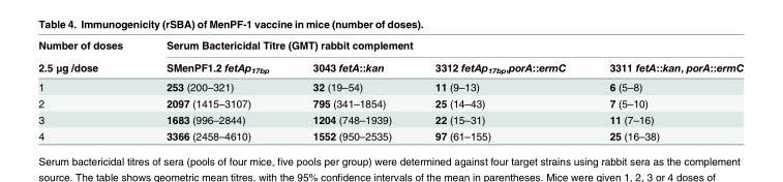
<table><thead><tr><td rowspan="2">Number of doses 2.5 μg /dose</td><td colspan="4">Serum Bactericidal Titre (GMT) rabbit complement</td></tr><tr><td>SMenPF1.2 fetAp<sub>17bp</sub></td><td>3043 fetA::kan</td><td>3312 fetAp<sub>17bp</sub>,porA::ermC</td><td>3311 fetA::kan, porA::ermC</td></tr></thead><tbody><tr><td>1</td><td>253 (200–321)</td><td>32 (19–54)</td><td>11 (9–13)</td><td>6 (5–8)</td></tr><tr><td>2</td><td>2097 (1415–3107)</td><td>795 (341–1854)</td><td>25 (14–43)</td><td>7 (5–10)</td></tr><tr><td>3</td><td>1683 (996–2844)</td><td>1204 (748–1939)</td><td>22 (15–31)</td><td>11 (7–16)</td></tr><tr><td>4</td><td>3366 (2458–4610)</td><td>1552 (950–2535)</td><td>97 (61–155)</td><td>25 (16–38)</td></tr></tbody></table>